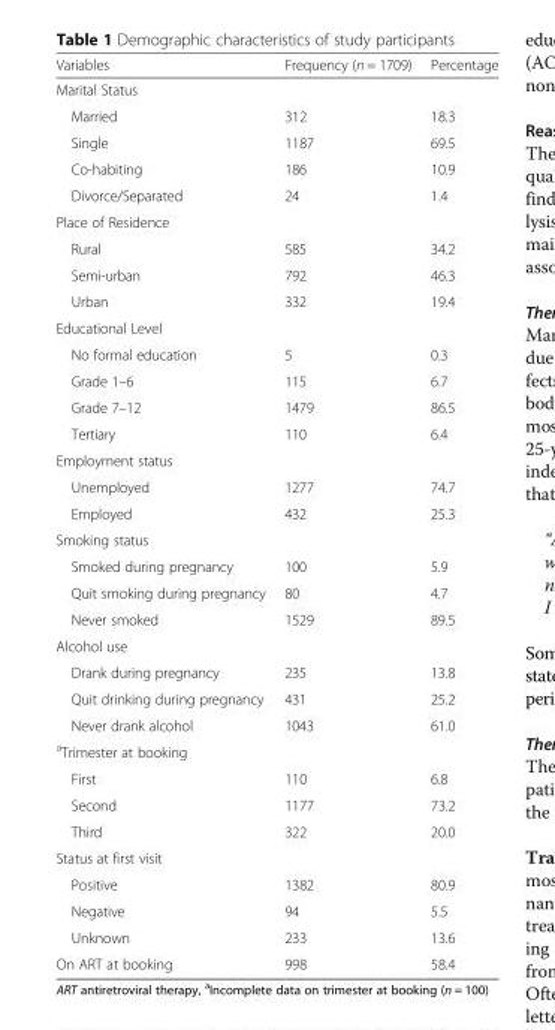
<table><thead><tr><td>Variables</td><td>Frequency (n = 1709)</td><td>Percentage</td></tr></thead><tbody><tr><td colspan="3">Marital Status</td></tr><tr><td>Married</td><td>312</td><td>18.3</td></tr><tr><td>Single</td><td>1187</td><td>69.5</td></tr><tr><td>Co-habiting</td><td>186</td><td>10.9</td></tr><tr><td>Divorce/Separated</td><td>24</td><td>1.4</td></tr><tr><td colspan="3">Place of Residence</td></tr><tr><td>Rural</td><td>585</td><td>34.2</td></tr><tr><td>Semi-urban</td><td>792</td><td>46.3</td></tr><tr><td>Urban</td><td>332</td><td>19.4</td></tr><tr><td colspan="3">Educational Level</td></tr><tr><td>No formal education</td><td>5</td><td>0.3</td></tr><tr><td>Grade 1–6</td><td>115</td><td>6.7</td></tr><tr><td>Grade 7–12</td><td>1479</td><td>86.5</td></tr><tr><td>Tertiary</td><td>110</td><td>6.4</td></tr><tr><td colspan="3">Employment status</td></tr><tr><td>Unemployed</td><td>1277</td><td>74.7</td></tr><tr><td>Employed</td><td>432</td><td>25.3</td></tr><tr><td colspan="3">Smoking status</td></tr><tr><td>Smoked during pregnancy</td><td>100</td><td>5.9</td></tr><tr><td>Quit smoking during pregnancy</td><td>80</td><td>4.7</td></tr><tr><td>Never smoked</td><td>1529</td><td>89.5</td></tr><tr><td colspan="3">Alcohol use</td></tr><tr><td>Drank during pregnancy</td><td>235</td><td>13.8</td></tr><tr><td>Quit drinking during pregnancy</td><td>431</td><td>25.2</td></tr><tr><td>Never drank alcohol</td><td>1043</td><td>61.0</td></tr><tr><td colspan="3"><sup>a</sup>Trimester at booking</td></tr><tr><td>First</td><td>110</td><td>6.8</td></tr><tr><td>Second</td><td>1177</td><td>73.2</td></tr><tr><td>Third</td><td>322</td><td>20.0</td></tr><tr><td colspan="3">Status at first visit</td></tr><tr><td>Positive</td><td>1382</td><td>80.9</td></tr><tr><td>Negative</td><td>94</td><td>5.5</td></tr><tr><td>Unknown</td><td>233</td><td>13.6</td></tr><tr><td>On ART at booking</td><td>998</td><td>58.4</td></tr></tbody></table>